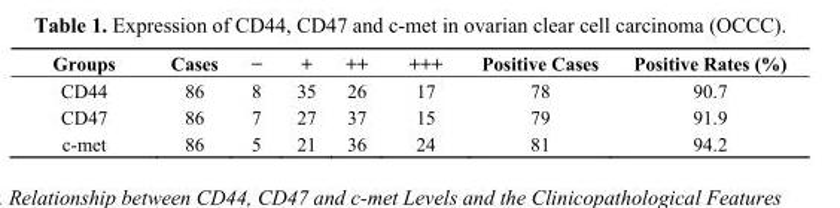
<table><thead><tr><td>Groups</td><td>Cases</td><td>−</td><td>+</td><td>++</td><td>+++</td><td>Positive Cases</td><td>Positive Rates (%)</td></tr></thead><tbody><tr><td>CD44</td><td>86</td><td>8</td><td>35</td><td>26</td><td>17</td><td>78</td><td>90.7</td></tr><tr><td>CD47</td><td>86</td><td>7</td><td>27</td><td>37</td><td>15</td><td>79</td><td>91.9</td></tr><tr><td>c-met</td><td>86</td><td>5</td><td>21</td><td>36</td><td>24</td><td>81</td><td>94.2</td></tr></tbody></table>